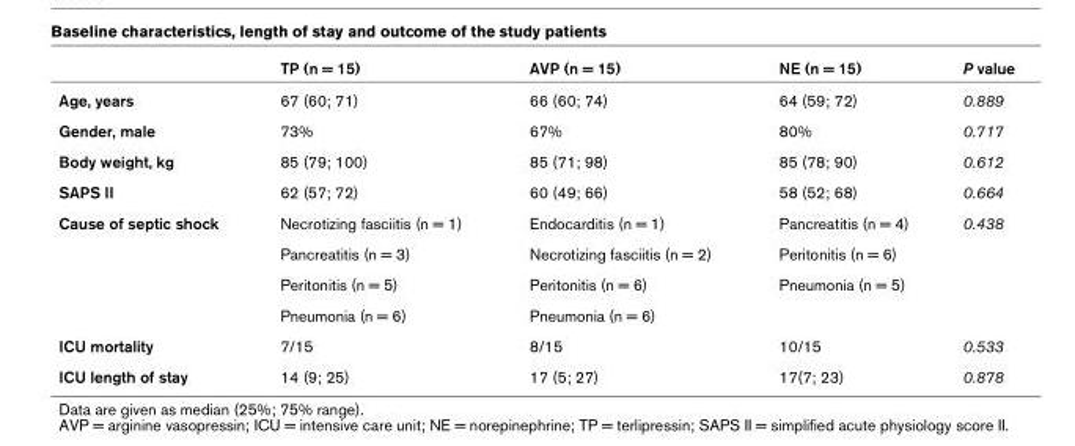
<table><thead><tr><td></td><td>TP (n = 15)</td><td>AVP (n = 15)</td><td>NE (n = 15)</td><td>P value</td></tr></thead><tbody><tr><td>Age, years</td><td>67 (60; 71)</td><td>66 (60; 74)</td><td>64 (59; 72)</td><td>0.889</td></tr><tr><td>Gender, male</td><td>73%</td><td>67%</td><td>80%</td><td>0.717</td></tr><tr><td>Body weight, kg</td><td>85 (79; 100)</td><td>85 (71; 98)</td><td>85 (78; 90)</td><td>0.612</td></tr><tr><td>SAPS II</td><td>62 (57; 72)</td><td>60 (49; 66)</td><td>58 (52; 68)</td><td>0.664</td></tr><tr><td rowspan="4">Cause of septic shock</td><td>Necrotizing fasciitis (n = 1)</td><td>Endocarditis (n = 1)</td><td>Pancreatitis (n = 4)</td><td>0.438</td></tr><tr><td>Pancreatitis (n = 3)</td><td>Necrotizing fasciitis (n = 2)</td><td>Peritonitis (n = 6)</td><td></td></tr><tr><td>Peritonitis (n = 5)</td><td>Peritonitis (n = 6)</td><td>Pneumonia (n = 5)</td><td></td></tr><tr><td>Pneumonia (n = 6)</td><td>Pneumonia (n = 6)</td><td></td><td></td></tr><tr><td>ICU mortality</td><td>7/15</td><td>8/15</td><td>10/15</td><td>0.533</td></tr><tr><td>ICU length of stay</td><td>14 (9; 25)</td><td>17 (5; 27)</td><td>17(7; 23)</td><td>0.878</td></tr></tbody></table>